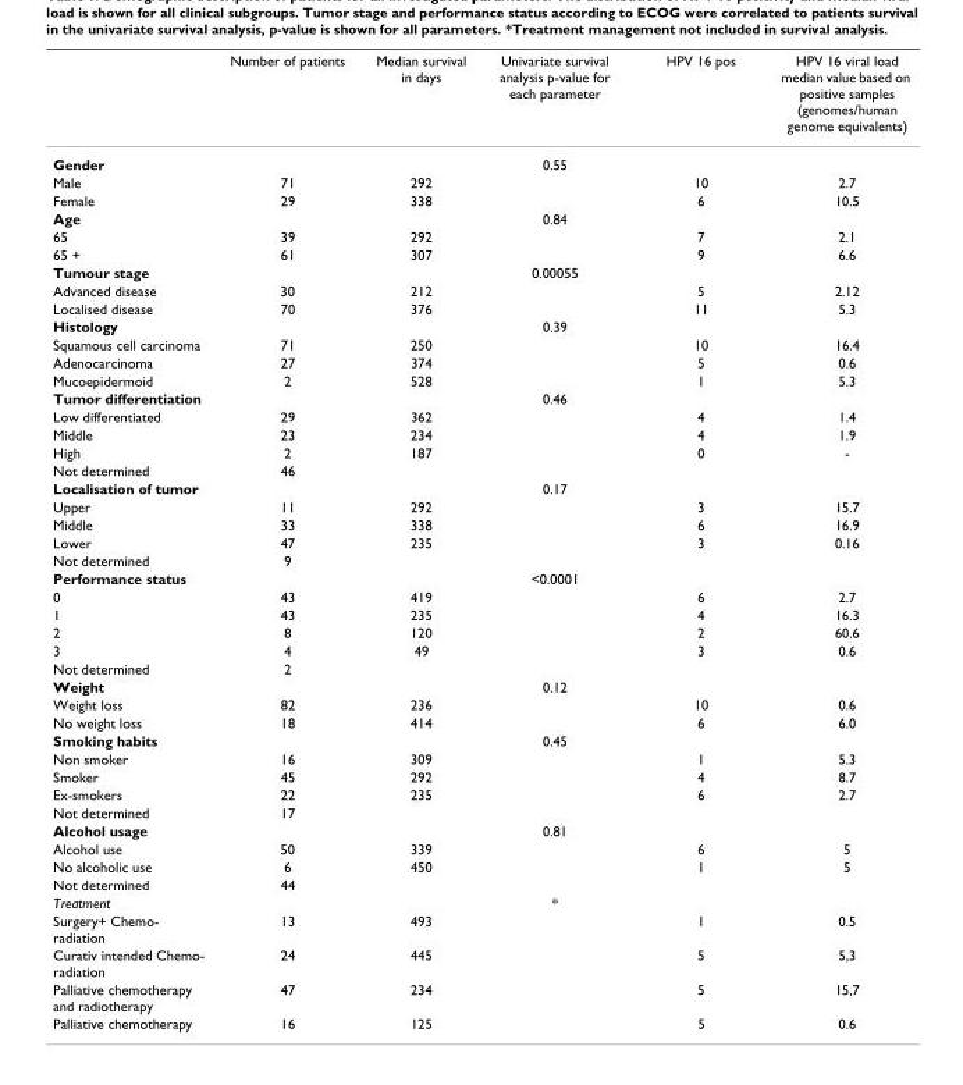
<table><thead><tr><td></td><td>Number of patients</td><td>Median survival in days</td><td>Univariate survival analysis p-value for each parameter</td><td>HPV 16 pos</td><td>HPV 16 viral load median value based on positive samples (genomes/human genome equivalents)</td></tr></thead><tbody><tr><td>Gender</td><td></td><td></td><td>0.55</td><td></td><td></td></tr><tr><td>Male</td><td>71</td><td>292</td><td></td><td>10</td><td>2.7</td></tr><tr><td>Female</td><td>29</td><td>338</td><td></td><td>6</td><td>10.5</td></tr><tr><td>Age</td><td></td><td></td><td>0.84</td><td></td><td></td></tr><tr><td>65</td><td>39</td><td>292</td><td></td><td>7</td><td>2.1</td></tr><tr><td>65 +</td><td>61</td><td>307</td><td></td><td>9</td><td>6.6</td></tr><tr><td>Tumour stage</td><td></td><td></td><td>0.00055</td><td></td><td></td></tr><tr><td>Advanced disease</td><td>30</td><td>212</td><td></td><td>5</td><td>2.12</td></tr><tr><td>Localised disease</td><td>70</td><td>376</td><td></td><td>11</td><td>5.3</td></tr><tr><td>Histology</td><td></td><td></td><td>0.39</td><td></td><td></td></tr><tr><td>Squamous cell carcinoma</td><td>71</td><td>250</td><td></td><td>10</td><td>16.4</td></tr><tr><td>Adenocarcinoma</td><td>27</td><td>374</td><td></td><td>5</td><td>0.6</td></tr><tr><td>Mucoepidermoid</td><td>2</td><td>528</td><td></td><td>1</td><td>5.3</td></tr><tr><td>Tumor differentiation</td><td></td><td></td><td>0.46</td><td></td><td></td></tr><tr><td>Low differentiated</td><td>29</td><td>362</td><td></td><td>4</td><td>1.4</td></tr><tr><td>Middle</td><td>23</td><td>234</td><td></td><td>4</td><td>1.9</td></tr><tr><td>High</td><td>2</td><td>187</td><td></td><td>0</td><td>-</td></tr><tr><td>Not determined</td><td>46</td><td></td><td></td><td></td><td></td></tr><tr><td>Localisation of tumor</td><td></td><td></td><td>0.17</td><td></td><td></td></tr><tr><td>Upper</td><td>11</td><td>292</td><td></td><td>3</td><td>15.7</td></tr><tr><td>Middle</td><td>33</td><td>338</td><td></td><td>6</td><td>16.9</td></tr><tr><td>Lower</td><td>47</td><td>235</td><td></td><td>3</td><td>0.16</td></tr><tr><td>Not determined</td><td>9</td><td></td><td></td><td></td><td></td></tr><tr><td>Performance status</td><td></td><td></td><td>&lt;0.0001</td><td></td><td></td></tr><tr><td>0</td><td>43</td><td>419</td><td></td><td>6</td><td>2.7</td></tr><tr><td>1</td><td>43</td><td>235</td><td></td><td>4</td><td>16.3</td></tr><tr><td>2</td><td>8</td><td>120</td><td></td><td>2</td><td>60.6</td></tr><tr><td>3</td><td>4</td><td>49</td><td></td><td>3</td><td>0.6</td></tr><tr><td>Not determined</td><td>2</td><td></td><td></td><td></td><td></td></tr><tr><td>Weight</td><td></td><td></td><td>0.12</td><td></td><td></td></tr><tr><td>Weight loss</td><td>82</td><td>236</td><td></td><td>10</td><td>0.6</td></tr><tr><td>No weight loss</td><td>18</td><td>414</td><td></td><td>6</td><td>6.0</td></tr><tr><td>Smoking habits</td><td></td><td></td><td>0.45</td><td></td><td></td></tr><tr><td>Non smoker</td><td>16</td><td>309</td><td></td><td>1</td><td>5.3</td></tr><tr><td>Smoker</td><td>45</td><td>292</td><td></td><td>4</td><td>8.7</td></tr><tr><td>Ex-smokers</td><td>22</td><td>235</td><td></td><td>6</td><td>2.7</td></tr><tr><td>Not determined</td><td>17</td><td></td><td></td><td></td><td></td></tr><tr><td>Alcohol usage</td><td></td><td></td><td>0.81</td><td></td><td></td></tr><tr><td>Alcohol use</td><td>50</td><td>339</td><td></td><td>6</td><td>5</td></tr><tr><td>No alcoholic use</td><td>6</td><td>450</td><td></td><td>1</td><td>5</td></tr><tr><td>Not determined</td><td>44</td><td></td><td></td><td></td><td></td></tr><tr><td>Treatment</td><td></td><td></td><td>*</td><td></td><td></td></tr><tr><td>Surgery+ Chemo- radiation</td><td>13</td><td>493</td><td></td><td>1</td><td>0.5</td></tr><tr><td>Curativ intended Chemo- radiation</td><td>24</td><td>445</td><td></td><td>5</td><td>5,3</td></tr><tr><td>Palliative chemotherapy and radiotherapy</td><td>47</td><td>234</td><td></td><td>5</td><td>15,7</td></tr><tr><td>Palliative chemotherapy</td><td>16</td><td>125</td><td></td><td>5</td><td>0.6</td></tr></tbody></table>